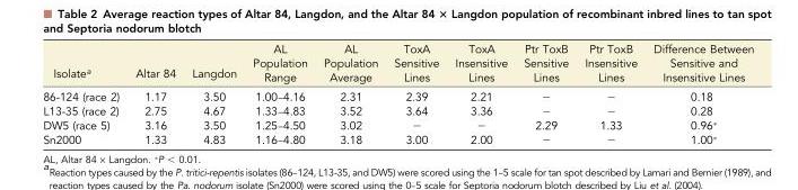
<table><thead><tr><td>Isolate<sup>a</sup></td><td>Altar 84</td><td>Langdon</td><td>AL Population Range</td><td>AL Population Average</td><td>ToxA Sensitive Lines</td><td>ToxA Insensitive Lines</td><td>Ptr ToxB Sensitive Lines</td><td>Ptr ToxB Insensitive Lines</td><td>Difference Between Sensitive and Insensitive Lines</td></tr></thead><tbody><tr><td>86-124 (race 2)</td><td>1.17</td><td>3.50</td><td>1.00–4.16</td><td>2.31</td><td>2.39</td><td>2.21</td><td>−</td><td>−</td><td>0.18</td></tr><tr><td>L13-35 (race 2)</td><td>2.75</td><td>4.67</td><td>1.33–4.83</td><td>3.52</td><td>3.64</td><td>3.36</td><td>−</td><td>−</td><td>0.28</td></tr><tr><td>DW5 (race 5)</td><td>3.16</td><td>3.50</td><td>1.25–4.50</td><td>3.02</td><td>−</td><td>−</td><td>2.29</td><td>1.33</td><td>0.96*</td></tr><tr><td>Sn2000</td><td>1.33</td><td>4.83</td><td>1.16–4.80</td><td>3.18</td><td>3.00</td><td>2.00</td><td>−</td><td>−</td><td>1.00*</td></tr></tbody></table>